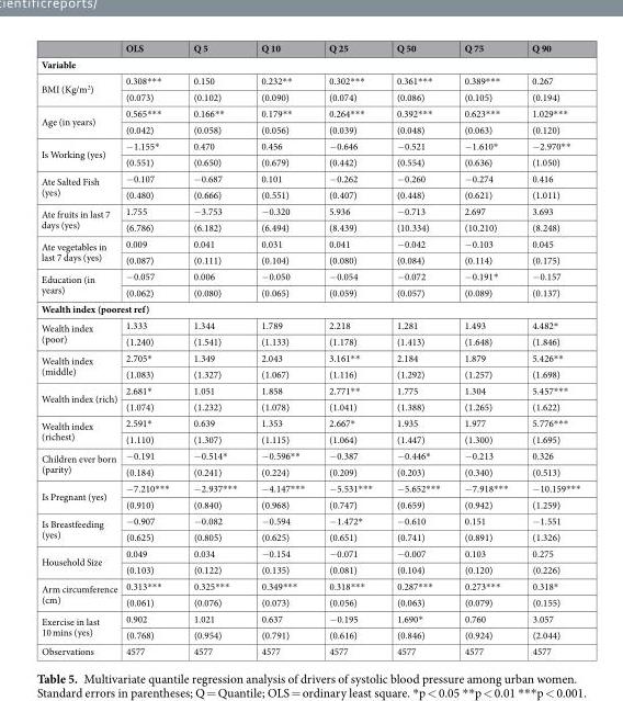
<table><thead><tr><td></td><td>OLS</td><td>Q 5</td><td>Q 10</td><td>Q 25</td><td>Q 50</td><td>Q 75</td><td>Q 90</td></tr></thead><tbody><tr><td colspan="8">Variable</td></tr><tr><td rowspan="2">BMI (Kg/m<sup>2</sup>)</td><td>0.308***</td><td>0.150</td><td>0.232**</td><td>0.302***</td><td>0.361***</td><td>0.389***</td><td>0.267</td></tr><tr><td>(0.073)</td><td>(0.102)</td><td>(0.090)</td><td>(0.074)</td><td>(0.086)</td><td>(0.105)</td><td>(0.194)</td></tr><tr><td rowspan="2">Age (in years)</td><td>0.565***</td><td>0.166**</td><td>0.179**</td><td>0.264***</td><td>0.392***</td><td>0.623***</td><td>1.029***</td></tr><tr><td>(0.042)</td><td>(0.058)</td><td>(0.056)</td><td>(0.039)</td><td>(0.048)</td><td>(0.063)</td><td>(0.120)</td></tr><tr><td rowspan="2">Is Working (yes)</td><td>−1.155*</td><td>0.470</td><td>0.456</td><td>−0.646</td><td>−0.521</td><td>−1.610*</td><td>−2.970**</td></tr><tr><td>(0.551)</td><td>(0.650)</td><td>(0.679)</td><td>(0.442)</td><td>(0.554)</td><td>(0.636)</td><td>(1.050)</td></tr><tr><td rowspan="2">Ate Salted Fish (yes)</td><td>−0.107</td><td>−0.687</td><td>0.101</td><td>−0.262</td><td>−0.260</td><td>−0.274</td><td>0.416</td></tr><tr><td>(0.480)</td><td>(0.666)</td><td>(0.551)</td><td>(0.407)</td><td>(0.448)</td><td>(0.621)</td><td>(1.011)</td></tr><tr><td rowspan="2">Ate fruits in last 7 days (yes)</td><td>1.755</td><td>−3.753</td><td>−0.320</td><td>5.936</td><td>−0.713</td><td>2.697</td><td>3.693</td></tr><tr><td>(6.786)</td><td>(6.182)</td><td>(6.494)</td><td>(8.439)</td><td>(10.334)</td><td>(10.210)</td><td>(8.248)</td></tr><tr><td rowspan="2">Ate vegetables in last 7 days (yes)</td><td>0.009</td><td>0.041</td><td>0.031</td><td>0.041</td><td>−0.042</td><td>−0.103</td><td>0.045</td></tr><tr><td>(0.087)</td><td>(0.111)</td><td>(0.104)</td><td>(0.080)</td><td>(0.084)</td><td>(0.114)</td><td>(0.175)</td></tr><tr><td rowspan="2">Education (in years)</td><td>−0.057</td><td>0.006</td><td>−0.050</td><td>−0.054</td><td>−0.072</td><td>−0.191*</td><td>−0.157</td></tr><tr><td>(0.062)</td><td>(0.080)</td><td>(0.065)</td><td>(0.059)</td><td>(0.057)</td><td>(0.089)</td><td>(0.137)</td></tr><tr><td colspan="8">Wealth index (poorest ref)</td></tr><tr><td rowspan="2">Wealth index (poor)</td><td>1.333</td><td>1.344</td><td>1.789</td><td>2.218</td><td>1.281</td><td>1.493</td><td>4.482*</td></tr><tr><td>(1.240)</td><td>(1.541)</td><td>(1.133)</td><td>(1.178)</td><td>(1.413)</td><td>(1.648)</td><td>(1.846)</td></tr><tr><td rowspan="2">Wealth index (middle)</td><td>2.705*</td><td>1.349</td><td>2.043</td><td>3.161**</td><td>2.184</td><td>1.879</td><td>5.426**</td></tr><tr><td>(1.083)</td><td>(1.327)</td><td>(1.067)</td><td>(1.116)</td><td>(1.292)</td><td>(1.257)</td><td>(1.698)</td></tr><tr><td rowspan="2">Wealth index (rich)</td><td>2.681*</td><td>1.051</td><td>1.858</td><td>2.771**</td><td>1.775</td><td>1.304</td><td>5.457***</td></tr><tr><td>(1.074)</td><td>(1.232)</td><td>(1.078)</td><td>(1.041)</td><td>(1.388)</td><td>(1.265)</td><td>(1.622)</td></tr><tr><td rowspan="2">Wealth index (richest)</td><td>2.591*</td><td>0.639</td><td>1.353</td><td>2.667*</td><td>1.935</td><td>1.977</td><td>5.776***</td></tr><tr><td>(1.110)</td><td>(1.307)</td><td>(1.115)</td><td>(1.064)</td><td>(1.447)</td><td>(1.300)</td><td>(1.695)</td></tr><tr><td rowspan="2">Children ever born (parity)</td><td>−0.191</td><td>−0.514*</td><td>−0.596**</td><td>−0.387</td><td>−0.446*</td><td>−0.213</td><td>0.326</td></tr><tr><td>(0.184)</td><td>(0.241)</td><td>(0.224)</td><td>(0.209)</td><td>(0.203)</td><td>(0.340)</td><td>(0.513)</td></tr><tr><td rowspan="2">Is Pregnant (yes)</td><td>−7.210***</td><td>−2.937***</td><td>−4.147***</td><td>−5.531***</td><td>−5.652***</td><td>−7.918***</td><td>−10.159***</td></tr><tr><td>(0.910)</td><td>(0.840)</td><td>(0.968)</td><td>(0.747)</td><td>(0.659)</td><td>(0.942)</td><td>(1.259)</td></tr><tr><td rowspan="2">Is Breastfeeding (yes)</td><td>−0.907</td><td>−0.082</td><td>−0.594</td><td>−1.472*</td><td>−0.610</td><td>0.151</td><td>−1.551</td></tr><tr><td>(0.625)</td><td>(0.805)</td><td>(0.625)</td><td>(0.651)</td><td>(0.741)</td><td>(0.891)</td><td>(1.326)</td></tr><tr><td rowspan="2">Household Size</td><td>0.049</td><td>0.034</td><td>−0.154</td><td>−0.071</td><td>−0.007</td><td>0.103</td><td>0.275</td></tr><tr><td>(0.103)</td><td>(0.122)</td><td>(0.135)</td><td>(0.081)</td><td>(0.104)</td><td>(0.120)</td><td>(0.226)</td></tr><tr><td rowspan="2">Arm circumference (cm)</td><td>0.313***</td><td>0.325***</td><td>0.349***</td><td>0.318***</td><td>0.287***</td><td>0.273***</td><td>0.318*</td></tr><tr><td>(0.061)</td><td>(0.076)</td><td>(0.073)</td><td>(0.056)</td><td>(0.063)</td><td>(0.079)</td><td>(0.155)</td></tr><tr><td rowspan="2">Exercise in last 10 mins (yes)</td><td>0.902</td><td>1.021</td><td>0.637</td><td>−0.195</td><td>1.690*</td><td>0.760</td><td>3.057</td></tr><tr><td>(0.768)</td><td>(0.954)</td><td>(0.791)</td><td>(0.616)</td><td>(0.846)</td><td>(0.924)</td><td>(2.044)</td></tr><tr><td>Observations</td><td>4577</td><td>4577</td><td>4577</td><td>4577</td><td>4577</td><td>4577</td><td>4577</td></tr></tbody></table>